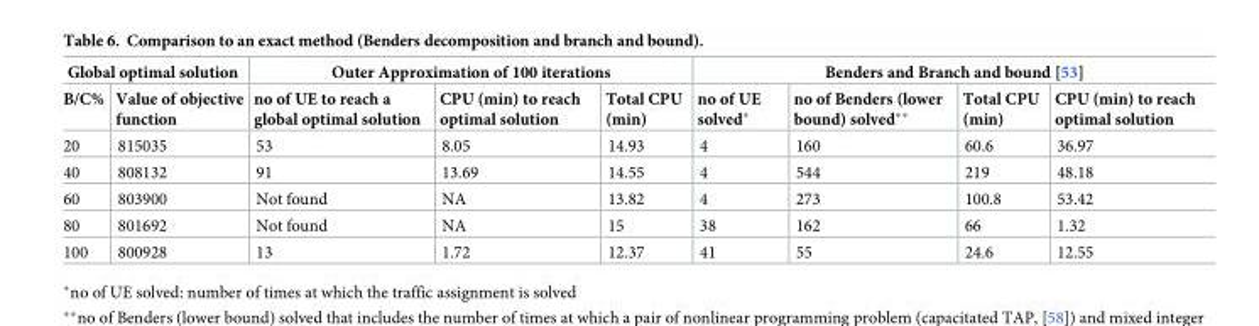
<table><thead><tr><td colspan="2">Global optimal solution</td><td colspan="3">Outer Approximation of 100 iterations</td><td colspan="4">Benders and Branch and bound [53]</td></tr><tr><td>B/C%</td><td>Value of objective function</td><td>no of UE to reach a global optimal solution</td><td>CPU (min) to reach optimal solution</td><td>Total CPU (min)</td><td>no of UE solved*</td><td>no of Benders (lower bound) solved**</td><td>Total CPU (min)</td><td>CPU (min) to reach optimal solution</td></tr></thead><tbody><tr><td>20</td><td>815035</td><td>53</td><td>8.05</td><td>14.93</td><td>4</td><td>160</td><td>60.6</td><td>36.97</td></tr><tr><td>40</td><td>808132</td><td>91</td><td>13.69</td><td>14.55</td><td>4</td><td>544</td><td>219</td><td>48.18</td></tr><tr><td>60</td><td>803900</td><td>Not found</td><td>NA</td><td>13.82</td><td>4</td><td>273</td><td>100.8</td><td>53.42</td></tr><tr><td>80</td><td>801692</td><td>Not found</td><td>NA</td><td>15</td><td>38</td><td>162</td><td>66</td><td>1.32</td></tr><tr><td>100</td><td>800928</td><td>13</td><td>1.72</td><td>12.37</td><td>41</td><td>55</td><td>24.6</td><td>12.55</td></tr></tbody></table>